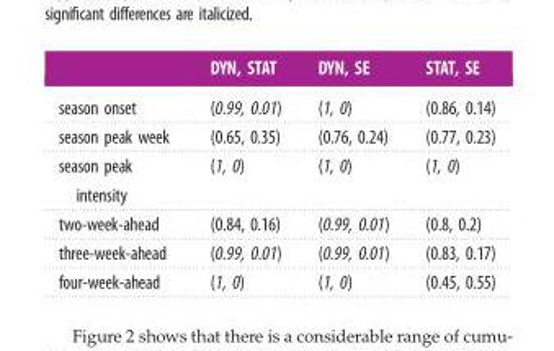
<table><thead><tr><td></td><td>DYN, STAT</td><td>DYN, SE</td><td>STAT, SE</td></tr></thead><tbody><tr><td>season onset</td><td>(0.99, 0.01)</td><td>(1, 0)</td><td>(0.86, 0.14)</td></tr><tr><td>season peak week</td><td>(0.65, 0.35)</td><td>(0.76, 0.24)</td><td>(0.77, 0.23)</td></tr><tr><td>season peak intensity</td><td>(1, 0)</td><td>(1, 0)</td><td>(1, 0)</td></tr><tr><td>two-week-ahead</td><td>(0.84, 0.16)</td><td>(0.99, 0.01)</td><td>(0.8, 0.2)</td></tr><tr><td>three-week-ahead</td><td>(0.99, 0.01)</td><td>(0.99, 0.01)</td><td>(0.83, 0.17)</td></tr><tr><td>four-week-ahead</td><td>(1, 0)</td><td>(1, 0)</td><td>(0.45, 0.55)</td></tr></tbody></table>